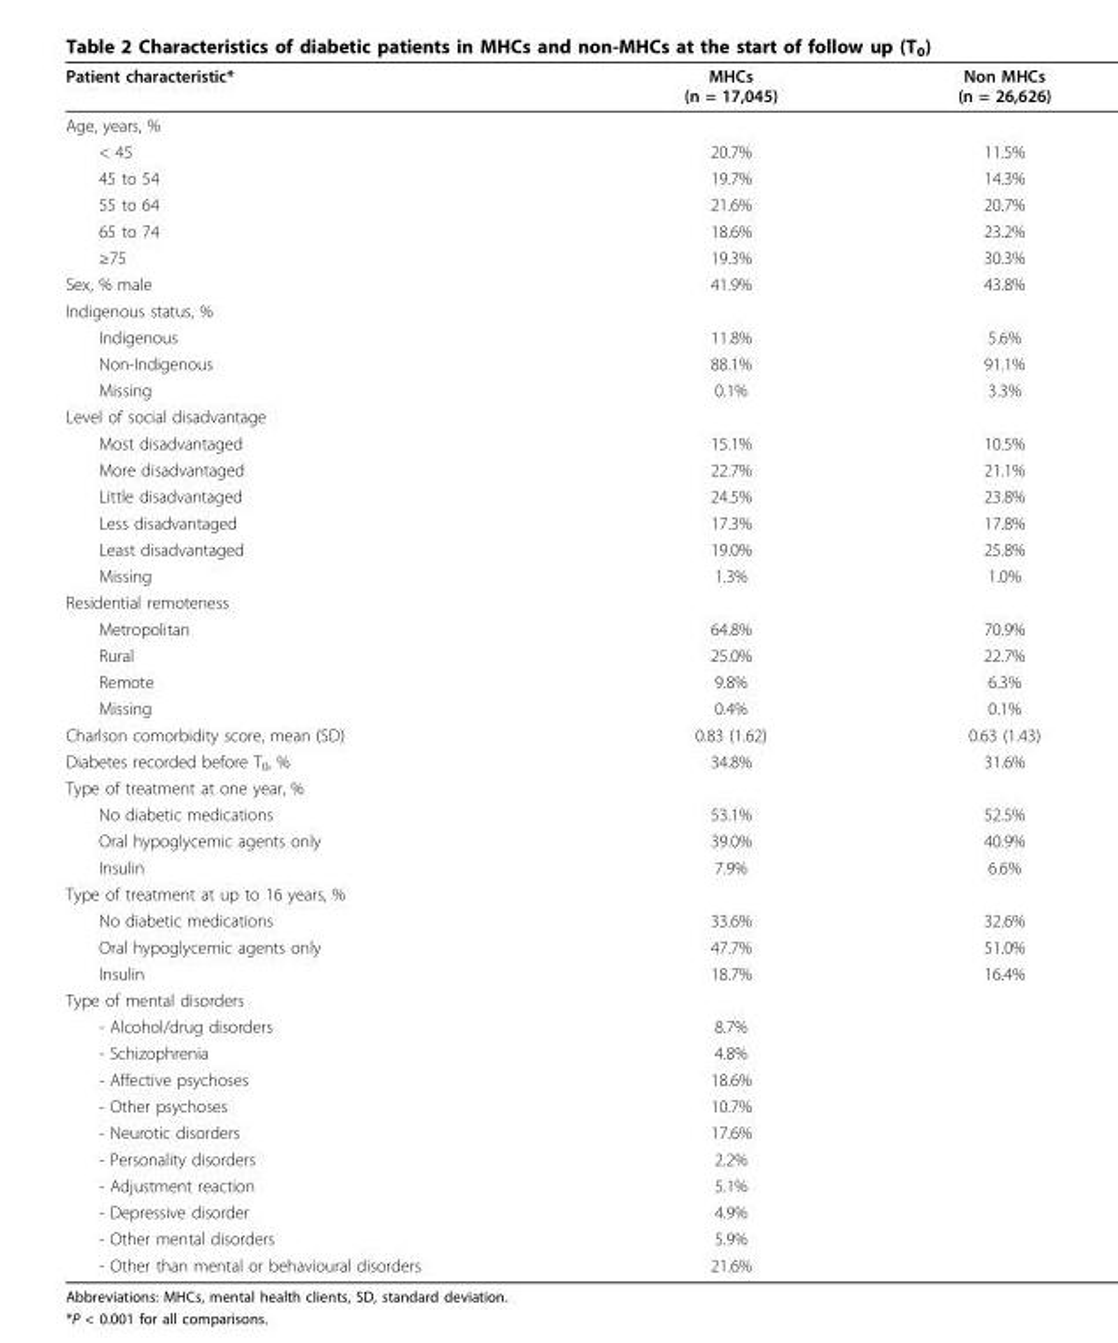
<table><thead><tr><td>Patient characteristic*</td><td>MHCs (n = 17,045)</td><td>Non MHCs (n = 26,626)</td></tr></thead><tbody><tr><td colspan="3">Age, years, %</td></tr><tr><td>&lt; 45</td><td>20.7%</td><td>11.5%</td></tr><tr><td>45 to 54</td><td>19.7%</td><td>14.3%</td></tr><tr><td>55 to 64</td><td>21.6%</td><td>20.7%</td></tr><tr><td>65 to 74</td><td>18.6%</td><td>23.2%</td></tr><tr><td>≥75</td><td>19.3%</td><td>30.3%</td></tr><tr><td>Sex, % male</td><td>41.9%</td><td>43.8%</td></tr><tr><td colspan="3">Indigenous status, %</td></tr><tr><td>Indigenous</td><td>11.8%</td><td>5.6%</td></tr><tr><td>Non-Indigenous</td><td>88.1%</td><td>91.1%</td></tr><tr><td>Missing</td><td>0.1%</td><td>3.3%</td></tr><tr><td colspan="3">Level of social disadvantage</td></tr><tr><td>Most disadvantaged</td><td>15.1%</td><td>10.5%</td></tr><tr><td>More disadvantaged</td><td>22.7%</td><td>21.1%</td></tr><tr><td>Little disadvantaged</td><td>24.5%</td><td>23.8%</td></tr><tr><td>Less disadvantaged</td><td>17.3%</td><td>17.8%</td></tr><tr><td>Least disadvantaged</td><td>19.0%</td><td>25.8%</td></tr><tr><td>Missing</td><td>1.3%</td><td>1.0%</td></tr><tr><td colspan="3">Residential remoteness</td></tr><tr><td>Metropolitan</td><td>64.8%</td><td>70.9%</td></tr><tr><td>Rural</td><td>25.0%</td><td>22.7%</td></tr><tr><td>Remote</td><td>9.8%</td><td>6.3%</td></tr><tr><td>Missing</td><td>0.4%</td><td>0.1%</td></tr><tr><td>Charlson comorbidity score, mean (SD)</td><td>0.83 (1.62)</td><td>0.63 (1.43)</td></tr><tr><td>Diabetes recorded before T<sub>0</sub>, %</td><td>34.8%</td><td>31.6%</td></tr><tr><td colspan="3">Type of treatment at one year, %</td></tr><tr><td>No diabetic medications</td><td>53.1%</td><td>52.5%</td></tr><tr><td>Oral hypoglycemic agents only</td><td>39.0%</td><td>40.9%</td></tr><tr><td>Insulin</td><td>7.9%</td><td>6.6%</td></tr><tr><td colspan="3">Type of treatment at up to 16 years, %</td></tr><tr><td>No diabetic medications</td><td>33.6%</td><td>32.6%</td></tr><tr><td>Oral hypoglycemic agents only</td><td>47.7%</td><td>51.0%</td></tr><tr><td>Insulin</td><td>18.7%</td><td>16.4%</td></tr><tr><td colspan="3">Type of mental disorders</td></tr><tr><td>- Alcohol/drug disorders</td><td>8.7%</td><td></td></tr><tr><td>- Schizophrenia</td><td>4.8%</td><td></td></tr><tr><td>- Affective psychoses</td><td>18.6%</td><td></td></tr><tr><td>- Other psychoses</td><td>10.7%</td><td></td></tr><tr><td>- Neurotic disorders</td><td>17.6%</td><td></td></tr><tr><td>- Personality disorders</td><td>2.2%</td><td></td></tr><tr><td>- Adjustment reaction</td><td>5.1%</td><td></td></tr><tr><td>- Depressive disorder</td><td>4.9%</td><td></td></tr><tr><td>- Other mental disorders</td><td>5.9%</td><td></td></tr><tr><td>- Other than mental or behavioural disorders</td><td>21.6%</td><td></td></tr></tbody></table>